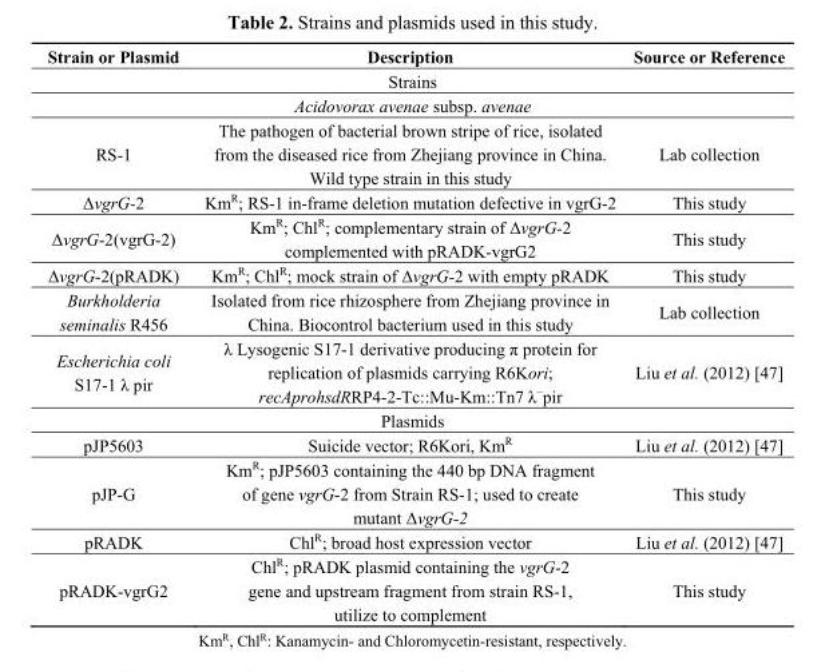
<table><thead><tr><td>Strain or Plasmid</td><td>Description</td><td>Source or Reference</td></tr></thead><tbody><tr><td colspan="3">Strains</td></tr><tr><td colspan="3">Acidovorax avenae subsp. avenae</td></tr><tr><td>RS-1</td><td>The pathogen of bacterial brown stripe of rice, isolated from the diseased rice from Zhejiang province in China. Wild type strain in this study</td><td>Lab collection</td></tr><tr><td>ΔvgrG-2</td><td>Km<sup>R</sup>; RS-1 in-frame deletion mutation defective in vgrG-2</td><td>This study</td></tr><tr><td>ΔvgrG-2(vgrG-2)</td><td>Km<sup>R</sup>; Chl<sup>R</sup>; complementary strain of ΔvgrG-2 complemented with pRADK-vgrG2</td><td>This study</td></tr><tr><td>ΔvgrG-2(pRADK)</td><td>Km<sup>R</sup>; Chl<sup>R</sup>; mock strain of ΔvgrG-2 with empty pRADK</td><td>This study</td></tr><tr><td>Burkholderia seminalis R456</td><td>Isolated from rice rhizosphere from Zhejiang province in China. Biocontrol bacterium used in this study</td><td>Lab collection</td></tr><tr><td>Escherichia coli S17-1 λ pir</td><td>λ Lysogenic S17-1 derivative producing π protein for replication of plasmids carrying R6Kori; recAprohsdRRP4-2-Tc::Mu-Km::Tn7 λ<sup>−</sup>pir</td><td>Liu et al. (2012) [47]</td></tr><tr><td colspan="3">Plasmids</td></tr><tr><td>pJP5603</td><td>Suicide vector; R6Kori, Km<sup>R</sup></td><td>Liu et al. (2012) [47]</td></tr><tr><td>pJP-G</td><td>Km<sup>R</sup>; pJP5603 containing the 440 bp DNA fragment of gene vgrG-2 from Strain RS-1; used to create mutant ΔvgrG-2</td><td>This study</td></tr><tr><td>pRADK</td><td>Chl<sup>R</sup>; broad host expression vector</td><td>Liu et al. (2012) [47]</td></tr><tr><td>pRADK-vgrG2</td><td>Chl<sup>R</sup>; pRADK plasmid containing the vgrG-2 gene and upstream fragment from strain RS-1, utilize to complement</td><td>This study</td></tr></tbody></table>